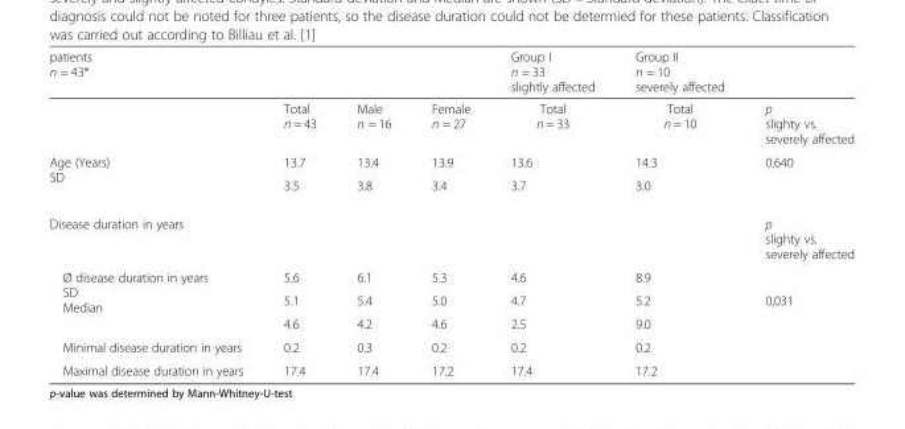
<table><thead><tr><td colspan="4">patients n = 43*</td><td rowspan="2">Group I n = 33 slightly affected Total n = 33</td><td rowspan="2">Group II n = 10 severely affected Total n = 10</td><td rowspan="2">p slighty vs. severely affected</td></tr><tr><td></td><td>Total n = 43</td><td>Male n = 16</td><td>Female n = 27</td></tr></thead><tbody><tr><td rowspan="2">Age (Years) SD</td><td>13.7</td><td>13.4</td><td>13.9</td><td>13.6</td><td>14.3</td><td rowspan="2">0.640</td></tr><tr><td>3.5</td><td>3.8</td><td>3.4</td><td>3.7</td><td>3.0</td></tr><tr><td>Disease duration in years</td><td colspan="5"></td><td>p slighty vs. severely affected</td></tr><tr><td rowspan="3">Ø disease duration in years SD Median</td><td>5.6</td><td>6.1</td><td>5.3</td><td>4.6</td><td>8.9</td><td></td></tr><tr><td>5.1</td><td>5.4</td><td>5.0</td><td>4.7</td><td>5.2</td><td>0,031</td></tr><tr><td>4.6</td><td>4.2</td><td>4.6</td><td>2.5</td><td>9.0</td><td></td></tr><tr><td>Minimal disease duration in years</td><td>0.2</td><td>0.3</td><td>0.2</td><td>0.2</td><td>0.2</td><td rowspan="2"></td></tr><tr><td>Maximal disease duration in years</td><td>17.4</td><td>17.4</td><td>17.2</td><td>17.4</td><td>17.2</td></tr></tbody></table>